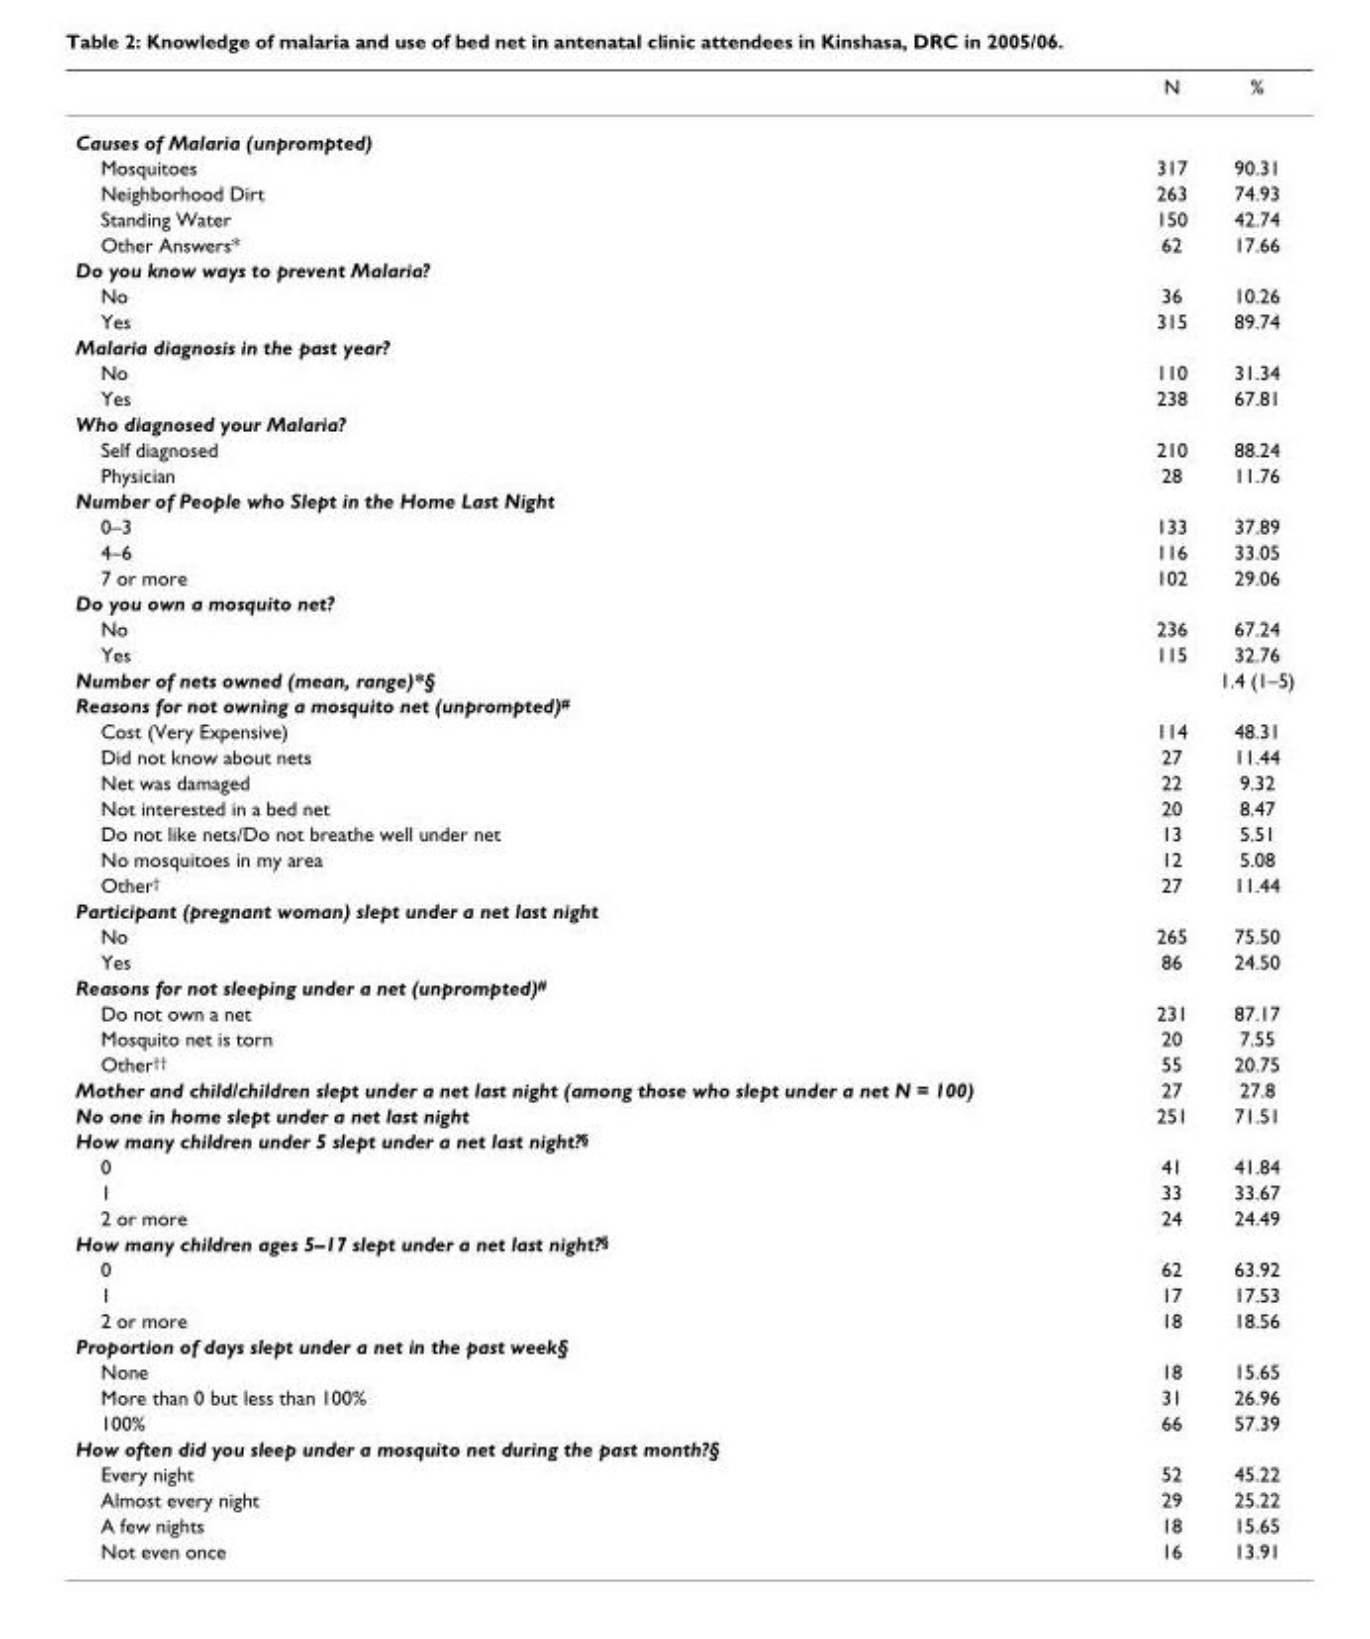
<table><thead><tr><td></td><td>N</td><td>%</td></tr></thead><tbody><tr><td colspan="3">Causes of Malaria (unprompted)</td></tr><tr><td>Mosquitoes</td><td>317</td><td>90.31</td></tr><tr><td>Neighborhood Dirt</td><td>263</td><td>74.93</td></tr><tr><td>Standing Water</td><td>150</td><td>42.74</td></tr><tr><td>Other Answers*</td><td>62</td><td>17.66</td></tr><tr><td colspan="3">Do you know ways to prevent Malaria?</td></tr><tr><td>No</td><td>36</td><td>10.26</td></tr><tr><td>Yes</td><td>315</td><td>89.74</td></tr><tr><td colspan="3">Malaria diagnosis in the past year?</td></tr><tr><td>No</td><td>110</td><td>31.34</td></tr><tr><td>Yes</td><td>238</td><td>67.81</td></tr><tr><td colspan="3">Who diagnosed your Malaria?</td></tr><tr><td>Self diagnosed</td><td>210</td><td>88.24</td></tr><tr><td>Physician</td><td>28</td><td>11.76</td></tr><tr><td colspan="3">Number of People who Slept in the Home Last Night</td></tr><tr><td>0–3</td><td>133</td><td>37.89</td></tr><tr><td>4–6</td><td>116</td><td>33.05</td></tr><tr><td>7 or more</td><td>102</td><td>29.06</td></tr><tr><td colspan="3">Do you own a mosquito net?</td></tr><tr><td>No</td><td>236</td><td>67.24</td></tr><tr><td>Yes</td><td>115</td><td>32.76</td></tr><tr><td>Number of nets owned (mean, range)*§</td><td></td><td>1.4 (1–5)</td></tr><tr><td colspan="3">Reasons for not owning a mosquito net (unprompted)<sup>#</sup></td></tr><tr><td>Cost (Very Expensive)</td><td>114</td><td>48.31</td></tr><tr><td>Did not know about nets</td><td>27</td><td>11.44</td></tr><tr><td>Net was damaged</td><td>22</td><td>9.32</td></tr><tr><td>Not interested in a bed net</td><td>20</td><td>8.47</td></tr><tr><td>Do not like nets/Do not breathe well under net</td><td>13</td><td>5.51</td></tr><tr><td>No mosquitoes in my area</td><td>12</td><td>5.08</td></tr><tr><td>Other<sup>†</sup></td><td>27</td><td>11.44</td></tr><tr><td colspan="3">Participant (pregnant woman) slept under a net last night</td></tr><tr><td>No</td><td>265</td><td>75.50</td></tr><tr><td>Yes</td><td>86</td><td>24.50</td></tr><tr><td colspan="3">Reasons for not sleeping under a net (unprompted)<sup>#</sup></td></tr><tr><td>Do not own a net</td><td>231</td><td>87.17</td></tr><tr><td>Mosquito net is torn</td><td>20</td><td>7.55</td></tr><tr><td>Other<sup>††</sup></td><td>55</td><td>20.75</td></tr><tr><td>Mother and child/children slept under a net last night (among those who slept under a net N = 100)</td><td>27</td><td>27.8</td></tr><tr><td>No one in home slept under a net last night</td><td>251</td><td>71.51</td></tr><tr><td colspan="3">How many children under 5 slept under a net last night?<sup>§</sup></td></tr><tr><td>0</td><td>41</td><td>41.84</td></tr><tr><td>1</td><td>33</td><td>33.67</td></tr><tr><td>2 or more</td><td>24</td><td>24.49</td></tr><tr><td colspan="3">How many children ages 5–17 slept under a net last night?<sup>§</sup></td></tr><tr><td>0</td><td>62</td><td>63.92</td></tr><tr><td>1</td><td>17</td><td>17.53</td></tr><tr><td>2 or more</td><td>18</td><td>18.56</td></tr><tr><td colspan="3">Proportion of days slept under a net in the past week§</td></tr><tr><td>None</td><td>18</td><td>15.65</td></tr><tr><td>More than 0 but less than 100%</td><td>31</td><td>26.96</td></tr><tr><td>100%</td><td>66</td><td>57.39</td></tr><tr><td colspan="3">How often did you sleep under a mosquito net during the past month?§</td></tr><tr><td>Every night</td><td>52</td><td>45.22</td></tr><tr><td>Almost every night</td><td>29</td><td>25.22</td></tr><tr><td>A few nights</td><td>18</td><td>15.65</td></tr><tr><td>Not even once</td><td>16</td><td>13.91</td></tr></tbody></table>